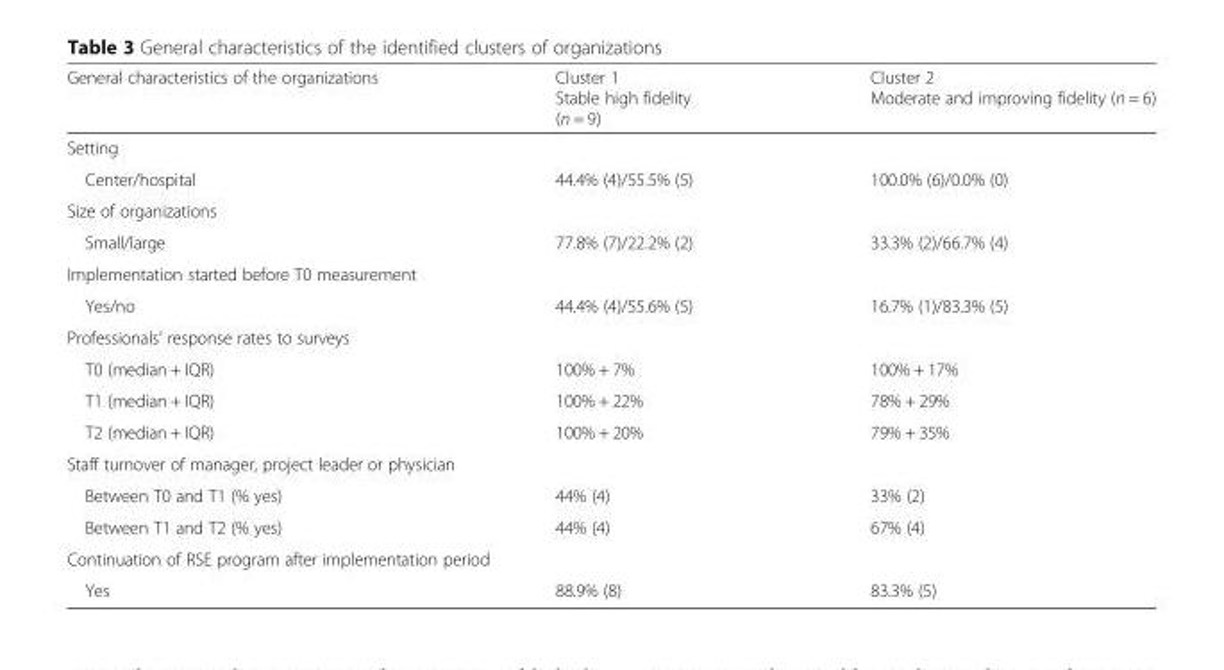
<table><thead><tr><td>General characteristics of the organizations</td><td>Cluster 1 Stable high fidelity (n = 9)</td><td>Cluster 2 Moderate and improving fidelity (n = 6)</td></tr></thead><tbody><tr><td colspan="3">Setting</td></tr><tr><td>Center/hospital</td><td>44.4% (4)/55.5% (5)</td><td>100.0% (6)/0.0% (0)</td></tr><tr><td colspan="3">Size of organizations</td></tr><tr><td>Small/large</td><td>77.8% (7)/22.2% (2)</td><td>33.3% (2)/66.7% (4)</td></tr><tr><td colspan="3">Implementation started before T0 measurement</td></tr><tr><td>Yes/no</td><td>44.4% (4)/55.6% (5)</td><td>16.7% (1)/83.3% (5)</td></tr><tr><td colspan="3">Professionals’ response rates to surveys</td></tr><tr><td>T0 (median + IQR)</td><td>100% + 7%</td><td>100% + 17%</td></tr><tr><td>T1 (median + IQR)</td><td>100% + 22%</td><td>78% + 29%</td></tr><tr><td>T2 (median + IQR)</td><td>100% + 20%</td><td>79% + 35%</td></tr><tr><td colspan="3">Staff turnover of manager, project leader or physician</td></tr><tr><td>Between T0 and T1 (% yes)</td><td>44% (4)</td><td>33% (2)</td></tr><tr><td>Between T1 and T2 (% yes)</td><td>44% (4)</td><td>67% (4)</td></tr><tr><td colspan="3">Continuation of RSE program after implementation period</td></tr><tr><td>Yes</td><td>88.9% (8)</td><td>83.3% (5)</td></tr></tbody></table>